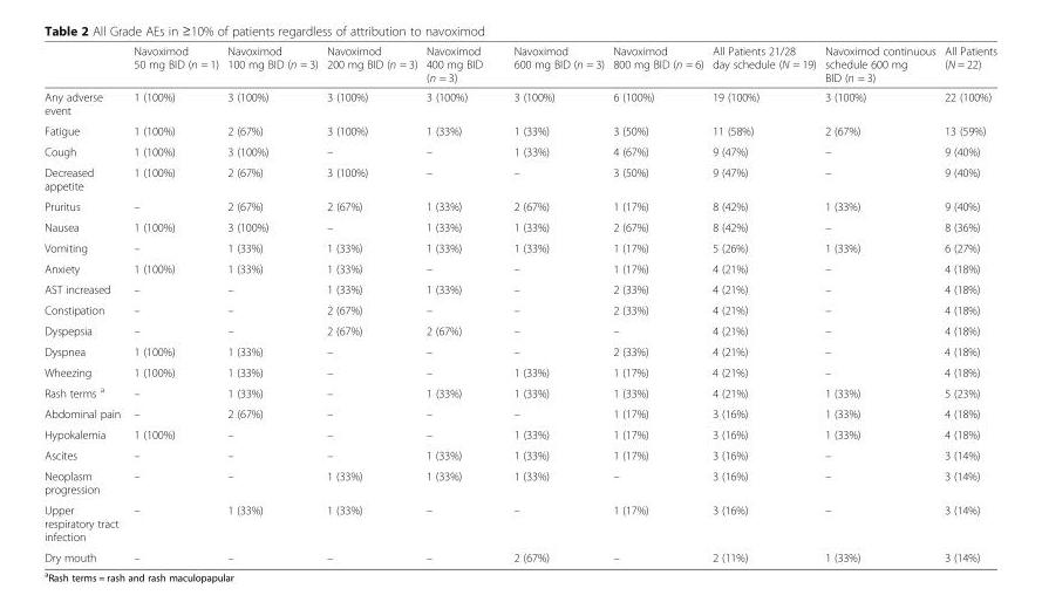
<table><thead><tr><td></td><td>Navoximod 50 mg BID (n = 1)</td><td>Navoximod 100 mg BID (n = 3)</td><td>Navoximod 200 mg BID (n = 3)</td><td>Navoximod 400 mg BID (n = 3)</td><td>Navoximod 600 mg BID (n = 3)</td><td>Navoximod 800 mg BID (n = 6)</td><td>All Patients 21/28 day schedule (N = 19)</td><td>Navoximod continuous schedule 600 mg BID (n = 3)</td><td>All Patients (N = 22)</td></tr></thead><tbody><tr><td>Any adverse event</td><td>1 (100%)</td><td>3 (100%)</td><td>3 (100%)</td><td>3 (100%)</td><td>3 (100%)</td><td>6 (100%)</td><td>19 (100%)</td><td>3 (100%)</td><td>22 (100%)</td></tr><tr><td>Fatigue</td><td>1 (100%)</td><td>2 (67%)</td><td>3 (100%)</td><td>1 (33%)</td><td>1 (33%)</td><td>3 (50%)</td><td>11 (58%)</td><td>2 (67%)</td><td>13 (59%)</td></tr><tr><td>Cough</td><td>1 (100%)</td><td>3 (100%)</td><td>–</td><td>–</td><td>1 (33%)</td><td>4 (67%)</td><td>9 (47%)</td><td>–</td><td>9 (40%)</td></tr><tr><td>Decreased appetite</td><td>1 (100%)</td><td>2 (67%)</td><td>3 (100%)</td><td>–</td><td>–</td><td>3 (50%)</td><td>9 (47%)</td><td>–</td><td>9 (40%)</td></tr><tr><td>Pruritus</td><td>–</td><td>2 (67%)</td><td>2 (67%)</td><td>1 (33%)</td><td>2 (67%)</td><td>1 (17%)</td><td>8 (42%)</td><td>1 (33%)</td><td>9 (40%)</td></tr><tr><td>Nausea</td><td>1 (100%)</td><td>3 (100%)</td><td>–</td><td>1 (33%)</td><td>1 (33%)</td><td>2 (67%)</td><td>8 (42%)</td><td>–</td><td>8 (36%)</td></tr><tr><td>Vomiting</td><td>–</td><td>1 (33%)</td><td>1 (33%)</td><td>1 (33%)</td><td>1 (33%)</td><td>1 (17%)</td><td>5 (26%)</td><td>1 (33%)</td><td>6 (27%)</td></tr><tr><td>Anxiety</td><td>1 (100%)</td><td>1 (33%)</td><td>1 (33%)</td><td>–</td><td>–</td><td>1 (17%)</td><td>4 (21%)</td><td>–</td><td>4 (18%)</td></tr><tr><td>AST increased</td><td>–</td><td>–</td><td>1 (33%)</td><td>1 (33%)</td><td>–</td><td>2 (33%)</td><td>4 (21%)</td><td>–</td><td>4 (18%)</td></tr><tr><td>Constipation</td><td>–</td><td>–</td><td>2 (67%)</td><td>–</td><td>–</td><td>2 (33%)</td><td>4 (21%)</td><td>–</td><td>4 (18%)</td></tr><tr><td>Dyspepsia</td><td>–</td><td>–</td><td>2 (67%)</td><td>2 (67%)</td><td>–</td><td>–</td><td>4 (21%)</td><td>–</td><td>4 (18%)</td></tr><tr><td>Dyspnea</td><td>1 (100%)</td><td>1 (33%)</td><td>–</td><td>–</td><td>–</td><td>2 (33%)</td><td>4 (21%)</td><td>–</td><td>4 (18%)</td></tr><tr><td>Wheezing</td><td>1 (100%)</td><td>1 (33%)</td><td>–</td><td>–</td><td>1 (33%)</td><td>1 (17%)</td><td>4 (21%)</td><td>–</td><td>4 (18%)</td></tr><tr><td>Rash terms <sup>a</sup></td><td>–</td><td>1 (33%)</td><td>–</td><td>1 (33%)</td><td>1 (33%)</td><td>1 (33%)</td><td>4 (21%)</td><td>1 (33%)</td><td>5 (23%)</td></tr><tr><td>Abdominal pain</td><td>–</td><td>2 (67%)</td><td>–</td><td>–</td><td>–</td><td>1 (17%)</td><td>3 (16%)</td><td>1 (33%)</td><td>4 (18%)</td></tr><tr><td>Hypokalemia</td><td>1 (100%)</td><td>–</td><td>–</td><td>–</td><td>1 (33%)</td><td>1 (17%)</td><td>3 (16%)</td><td>1 (33%)</td><td>4 (18%)</td></tr><tr><td>Ascites</td><td>–</td><td>–</td><td>–</td><td>1 (33%)</td><td>1 (33%)</td><td>1 (17%)</td><td>3 (16%)</td><td>–</td><td>3 (14%)</td></tr><tr><td>Neoplasm progression</td><td>–</td><td>–</td><td>1 (33%)</td><td>1 (33%)</td><td>1 (33%)</td><td>–</td><td>3 (16%)</td><td>–</td><td>3 (14%)</td></tr><tr><td>Upper respiratory tract infection</td><td>–</td><td>1 (33%)</td><td>1 (33%)</td><td>–</td><td>–</td><td>1 (17%)</td><td>3 (16%)</td><td>–</td><td>3 (14%)</td></tr><tr><td>Dry mouth</td><td>–</td><td>–</td><td>–</td><td>–</td><td>2 (67%)</td><td>–</td><td>2 (11%)</td><td>1 (33%)</td><td>3 (14%)</td></tr></tbody></table>